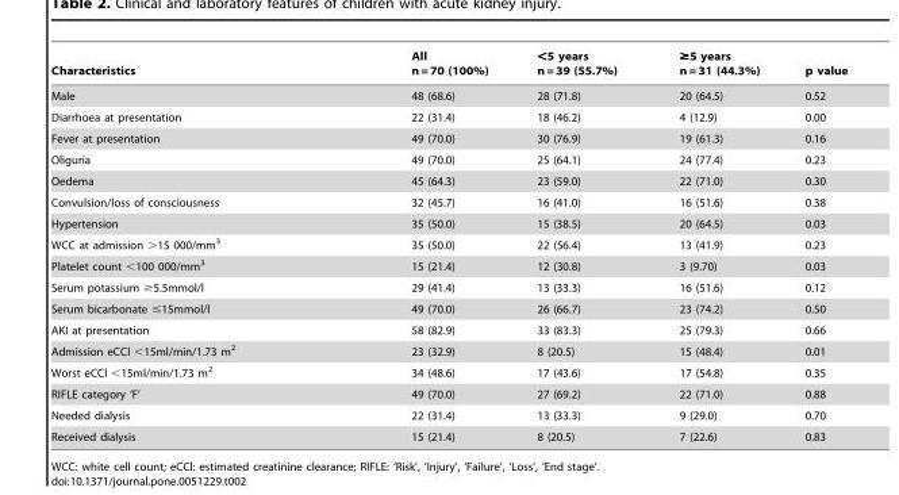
<table><thead><tr><td>Characteristics</td><td>All n = 70 (100%)</td><td>&lt;5 years n = 39 (55.7%)</td><td>≥5 years n = 31 (44.3%)</td><td>p value</td></tr></thead><tbody><tr><td>Male</td><td>48 (68.6)</td><td>28 (71.8)</td><td>20 (64.5)</td><td>0.52</td></tr><tr><td>Diarrhoea at presentation</td><td>22 (31.4)</td><td>18 (46.2)</td><td>4 (12.9)</td><td>0.00</td></tr><tr><td>Fever at presentation</td><td>49 (70.0)</td><td>30 (76.9)</td><td>19 (61.3)</td><td>0.16</td></tr><tr><td>Oliguria</td><td>49 (70.0)</td><td>25 (64.1)</td><td>24 (77.4)</td><td>0.23</td></tr><tr><td>Oedema</td><td>45 (64.3)</td><td>23 (59.0)</td><td>22 (71.0)</td><td>0.30</td></tr><tr><td>Convulsion/loss of consciousness</td><td>32 (45.7)</td><td>16 (41.0)</td><td>16 (51.6)</td><td>0.38</td></tr><tr><td>Hypertension</td><td>35 (50.0)</td><td>15 (38.5)</td><td>20 (64.5)</td><td>0.03</td></tr><tr><td>WCC at admission &gt;15 000/mm<sup>3</sup></td><td>35 (50.0)</td><td>22 (56.4)</td><td>13 (41.9)</td><td>0.23</td></tr><tr><td>Platelet count &lt;100 000/mm<sup>3</sup></td><td>15 (21.4)</td><td>12 (30.8)</td><td>3 (9.70)</td><td>0.03</td></tr><tr><td>Serum potassium ≥5.5mmol/l</td><td>29 (41.4)</td><td>13 (33.3)</td><td>16 (51.6)</td><td>0.12</td></tr><tr><td>Serum bicarbonate ≤15mmol/l</td><td>49 (70.0)</td><td>26 (66.7)</td><td>23 (74.2)</td><td>0.50</td></tr><tr><td>AKI at presentation</td><td>58 (82.9)</td><td>33 (83.3)</td><td>25 (79.3)</td><td>0.66</td></tr><tr><td>Admission eCCl &lt;15ml/min/1.73 m<sup>2</sup></td><td>23 (32.9)</td><td>8 (20.5)</td><td>15 (48.4)</td><td>0.01</td></tr><tr><td>Worst eCCl &lt;15ml/min/1.73 m<sup>2</sup></td><td>34 (48.6)</td><td>17 (43.6)</td><td>17 (54.8)</td><td>0.35</td></tr><tr><td>RIFLE category ‘F’</td><td>49 (70.0)</td><td>27 (69.2)</td><td>22 (71.0)</td><td>0.88</td></tr><tr><td>Needed dialysis</td><td>22 (31.4)</td><td>13 (33.3)</td><td>9 (29.0)</td><td>0.70</td></tr><tr><td>Received dialysis</td><td>15 (21.4)</td><td>8 (20.5)</td><td>7 (22.6)</td><td>0.83</td></tr></tbody></table>